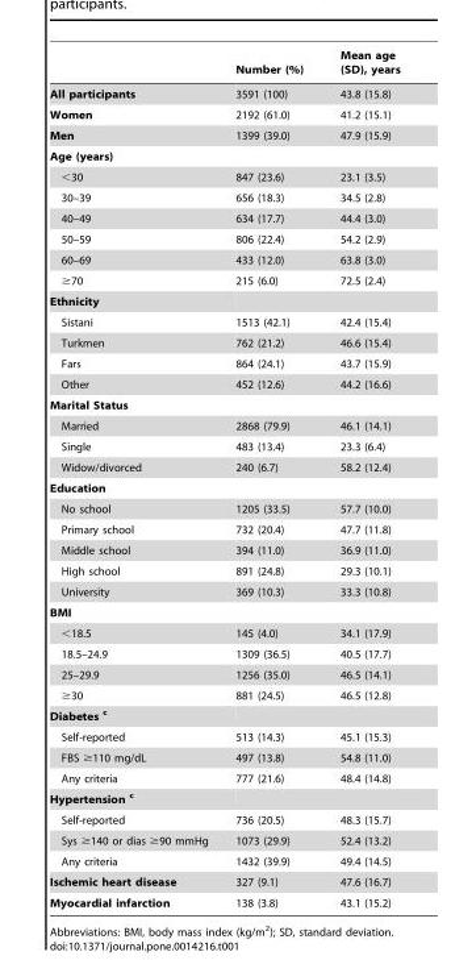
<table><thead><tr><td></td><td>Number (%)</td><td>Mean age (SD), years</td></tr></thead><tbody><tr><td>All participants</td><td>3591 (100)</td><td>43.8 (15.8)</td></tr><tr><td>Women</td><td>2192 (61.0)</td><td>41.2 (15.1)</td></tr><tr><td>Men</td><td>1399 (39.0)</td><td>47.9 (15.9)</td></tr><tr><td colspan="3">Age (years)</td></tr><tr><td>&lt;30</td><td>847 (23.6)</td><td>23.1 (3.5)</td></tr><tr><td>30–39</td><td>656 (18.3)</td><td>34.5 (2.8)</td></tr><tr><td>40–49</td><td>634 (17.7)</td><td>44.4 (3.0)</td></tr><tr><td>50–59</td><td>806 (22.4)</td><td>54.2 (2.9)</td></tr><tr><td>60–69</td><td>433 (12.0)</td><td>63.8 (3.0)</td></tr><tr><td>≥70</td><td>215 (6.0)</td><td>72.5 (2.4)</td></tr><tr><td colspan="3">Ethnicity</td></tr><tr><td>Sistani</td><td>1513 (42.1)</td><td>42.4 (15.4)</td></tr><tr><td>Turkmen</td><td>762 (21.2)</td><td>46.6 (15.4)</td></tr><tr><td>Fars</td><td>864 (24.1)</td><td>43.7 (15.9)</td></tr><tr><td>Other</td><td>452 (12.6)</td><td>44.2 (16.6)</td></tr><tr><td colspan="3">Marital Status</td></tr><tr><td>Married</td><td>2868 (79.9)</td><td>46.1 (14.1)</td></tr><tr><td>Single</td><td>483 (13.4)</td><td>23.3 (6.4)</td></tr><tr><td>Widow/divorced</td><td>240 (6.7)</td><td>58.2 (12.4)</td></tr><tr><td colspan="3">Education</td></tr><tr><td>No school</td><td>1205 (33.5)</td><td>57.7 (10.0)</td></tr><tr><td>Primary school</td><td>732 (20.4)</td><td>47.7 (11.8)</td></tr><tr><td>Middle school</td><td>394 (11.0)</td><td>36.9 (11.0)</td></tr><tr><td>High school</td><td>891 (24.8)</td><td>29.3 (10.1)</td></tr><tr><td>University</td><td>369 (10.3)</td><td>33.3 (10.8)</td></tr><tr><td colspan="3">BMI</td></tr><tr><td>&lt;18.5</td><td>145 (4.0)</td><td>34.1 (17.9)</td></tr><tr><td>18.5–24.9</td><td>1309 (36.5)</td><td>40.5 (17.7)</td></tr><tr><td>25–29.9</td><td>1256 (35.0)</td><td>46.5 (14.1)</td></tr><tr><td>≥30</td><td>881 (24.5)</td><td>46.5 (12.8)</td></tr><tr><td colspan="3">Diabetes <sup>c</sup></td></tr><tr><td>Self-reported</td><td>513 (14.3)</td><td>45.1 (15.3)</td></tr><tr><td>FBS ≥110 mg/dL</td><td>497 (13.8)</td><td>54.8 (11.0)</td></tr><tr><td>Any criteria</td><td>777 (21.6)</td><td>48.4 (14.8)</td></tr><tr><td colspan="3">Hypertension <sup>c</sup></td></tr><tr><td>Self-reported</td><td>736 (20.5)</td><td>48.3 (15.7)</td></tr><tr><td>Sys ≥140 or dias ≥90 mmHg</td><td>1073 (29.9)</td><td>52.4 (13.2)</td></tr><tr><td>Any criteria</td><td>1432 (39.9)</td><td>49.4 (14.5)</td></tr><tr><td>Ischemic heart disease</td><td>327 (9.1)</td><td>47.6 (16.7)</td></tr><tr><td>Myocardial infarction</td><td>138 (3.8)</td><td>43.1 (15.2)</td></tr></tbody></table>